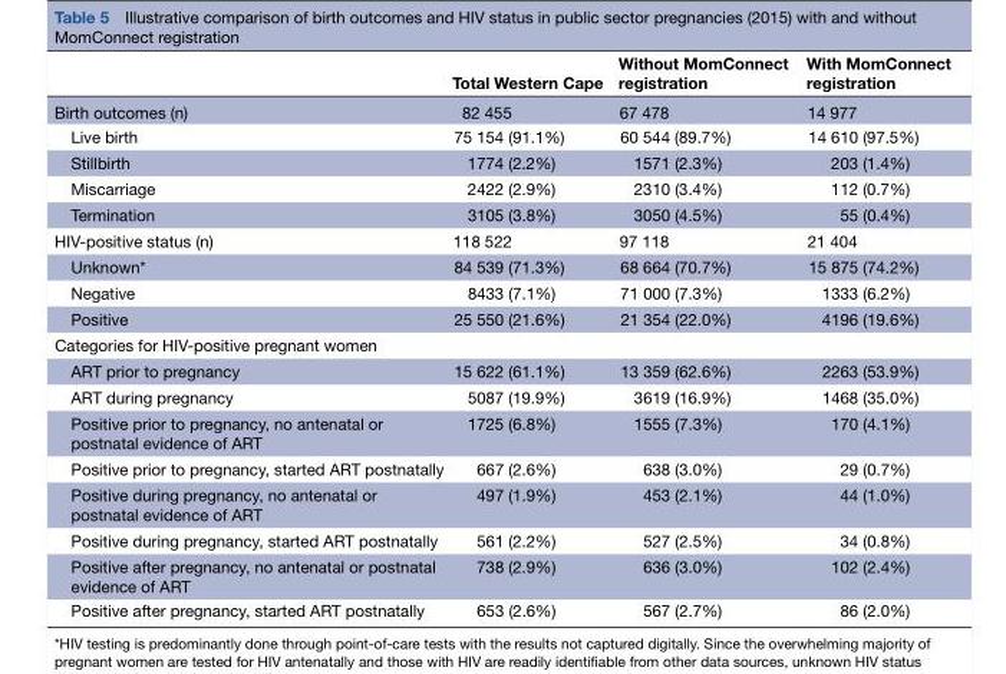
<table><thead><tr><td></td><td>Total Western Cape</td><td>Without MomConnect registration</td><td>With MomConnect registration</td></tr></thead><tbody><tr><td>Birth outcomes (n)</td><td>82 455</td><td>67 478</td><td>14 977</td></tr><tr><td>Live birth</td><td>75 154 (91.1%)</td><td>60 544 (89.7%)</td><td>14 610 (97.5%)</td></tr><tr><td>Stillbirth</td><td>1774 (2.2%)</td><td>1571 (2.3%)</td><td>203 (1.4%)</td></tr><tr><td>Miscarriage</td><td>2422 (2.9%)</td><td>2310 (3.4%)</td><td>112 (0.7%)</td></tr><tr><td>Termination</td><td>3105 (3.8%)</td><td>3050 (4.5%)</td><td>55 (0.4%)</td></tr><tr><td>HIV-positive status (n)</td><td>118 522</td><td>97 118</td><td>21 404</td></tr><tr><td>Unknown*</td><td>84 539 (71.3%)</td><td>68 664 (70.7%)</td><td>15 875 (74.2%)</td></tr><tr><td>Negative</td><td>8433 (7.1%)</td><td>71 000 (7.3%)</td><td>1333 (6.2%)</td></tr><tr><td>Positive</td><td>25 550 (21.6%)</td><td>21 354 (22.0%)</td><td>4196 (19.6%)</td></tr><tr><td colspan="4">Categories for HIV-positive pregnant women</td></tr><tr><td>ART prior to pregnancy</td><td>15 622 (61.1%)</td><td>13 359 (62.6%)</td><td>2263 (53.9%)</td></tr><tr><td>ART during pregnancy</td><td>5087 (19.9%)</td><td>3619 (16.9%)</td><td>1468 (35.0%)</td></tr><tr><td>Positive prior to pregnancy, no antenatal or postnatal evidence of ART</td><td>1725 (6.8%)</td><td>1555 (7.3%)</td><td>170 (4.1%)</td></tr><tr><td>Positive prior to pregnancy, started ART postnatally</td><td>667 (2.6%)</td><td>638 (3.0%)</td><td>29 (0.7%)</td></tr><tr><td>Positive during pregnancy, no antenatal or postnatal evidence of ART</td><td>497 (1.9%)</td><td>453 (2.1%)</td><td>44 (1.0%)</td></tr><tr><td>Positive during pregnancy, started ART postnatally</td><td>561 (2.2%)</td><td>527 (2.5%)</td><td>34 (0.8%)</td></tr><tr><td>Positive after pregnancy, no antenatal or postnatal evidence of ART</td><td>738 (2.9%)</td><td>636 (3.0%)</td><td>102 (2.4%)</td></tr><tr><td>Positive after pregnancy, started ART postnatally</td><td>653 (2.6%)</td><td>567 (2.7%)</td><td>86 (2.0%)</td></tr></tbody></table>